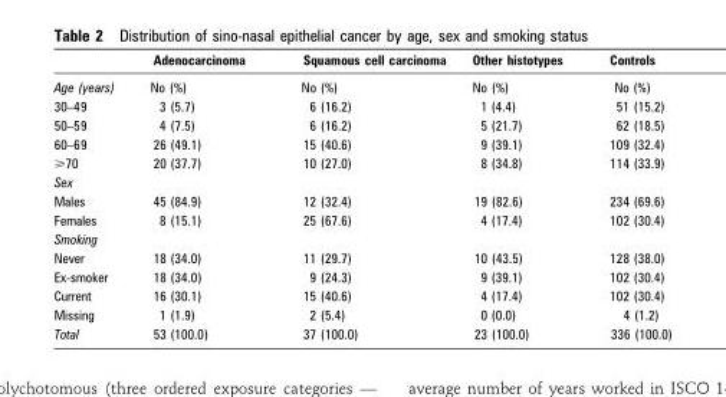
<table><thead><tr><td></td><td>Adenocarcinoma</td><td>Squamous cell carcinoma</td><td>Other histotypes</td><td>Controls</td></tr></thead><tbody><tr><td>Age (years)</td><td>No (%)</td><td>No (%)</td><td>No (%)</td><td>No (%)</td></tr><tr><td>30–49</td><td>3 (5.7)</td><td>6 (16.2)</td><td>1 (4.4)</td><td>51 (15.2)</td></tr><tr><td>50–59</td><td>4 (7.5)</td><td>6 (16.2)</td><td>5 (21.7)</td><td>62 (18.5)</td></tr><tr><td>60–69</td><td>26 (49.1)</td><td>15 (40.6)</td><td>9 (39.1)</td><td>109 (32.4)</td></tr><tr><td>&gt;70</td><td>20 (37.7)</td><td>10 (27.0)</td><td>8 (34.8)</td><td>114 (33.9)</td></tr><tr><td colspan="5">Sex</td></tr><tr><td>Males</td><td>45 (84.9)</td><td>12 (32.4)</td><td>19 (82.6)</td><td>234 (69.6)</td></tr><tr><td>Females</td><td>8 (15.1)</td><td>25 (67.6)</td><td>4 (17.4)</td><td>102 (30.4)</td></tr><tr><td colspan="5">Smoking</td></tr><tr><td>Never</td><td>18 (34.0)</td><td>11 (29.7)</td><td>10 (43.5)</td><td>128 (38.0)</td></tr><tr><td>Ex-smoker</td><td>18 (34.0)</td><td>9 (24.3)</td><td>9 (39.1)</td><td>102 (30.4)</td></tr><tr><td>Current</td><td>16 (30.1)</td><td>15 (40.6)</td><td>4 (17.4)</td><td>102 (30.4)</td></tr><tr><td>Missing</td><td>1 (1.9)</td><td>2 (5.4)</td><td>0 (0.0)</td><td>4 (1.2)</td></tr><tr><td>Total</td><td>53 (100.0)</td><td>37 (100.0)</td><td>23 (100.0)</td><td>336 (100.0)</td></tr></tbody></table>